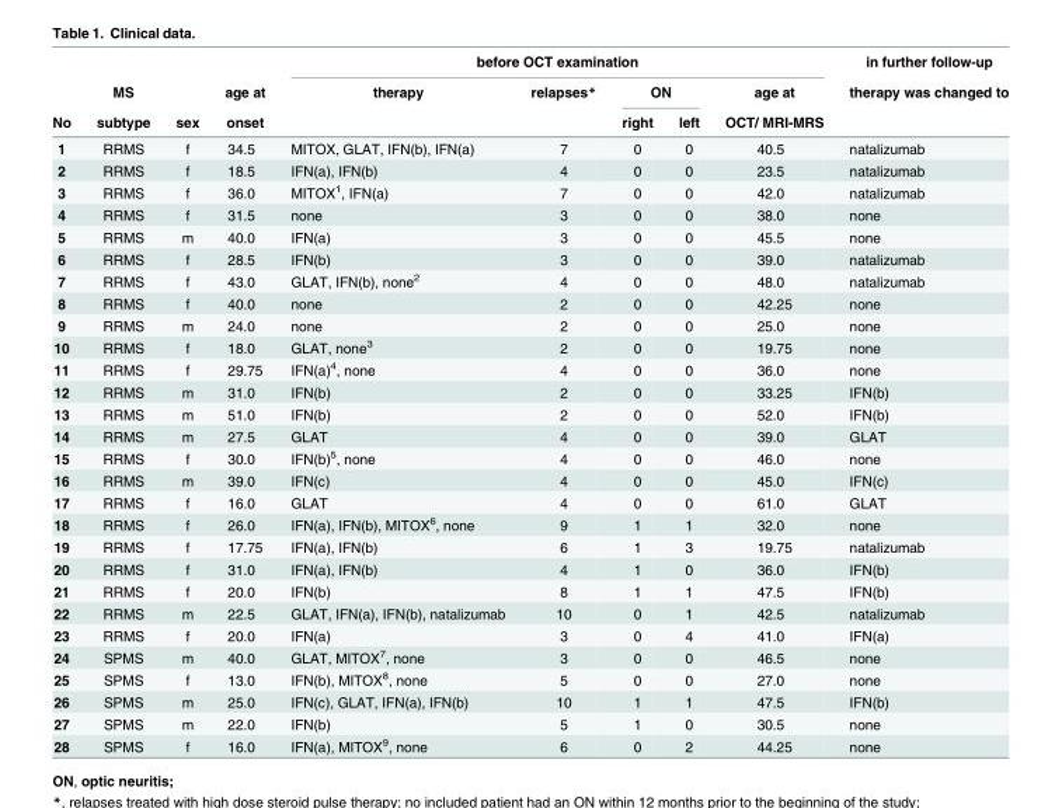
<table><thead><tr><td rowspan="3">No</td><td rowspan="3">MS subtype</td><td rowspan="3">sex</td><td rowspan="3">age at onset</td><td colspan="5">before OCT examination</td><td rowspan="3">in further follow-up therapy was changed to</td></tr><tr><td rowspan="2">therapy</td><td rowspan="2">relapses*</td><td colspan="2">ON</td><td rowspan="2">age at OCT/ MRI-MRS</td></tr><tr><td>right</td><td>left</td></tr></thead><tbody><tr><td>1</td><td>RRMS</td><td>f</td><td>34.5</td><td>MITOX, GLAT, IFN(b), IFN(a)</td><td>7</td><td>0</td><td>0</td><td>40.5</td><td>natalizumab</td></tr><tr><td>2</td><td>RRMS</td><td>f</td><td>18.5</td><td>IFN(a), IFN(b)</td><td>4</td><td>0</td><td>0</td><td>23.5</td><td>natalizumab</td></tr><tr><td>3</td><td>RRMS</td><td>f</td><td>36.0</td><td>MITOX<sup>1</sup>, IFN(a)</td><td>7</td><td>0</td><td>0</td><td>42.0</td><td>natalizumab</td></tr><tr><td>4</td><td>RRMS</td><td>f</td><td>31.5</td><td>none</td><td>3</td><td>0</td><td>0</td><td>38.0</td><td>none</td></tr><tr><td>5</td><td>RRMS</td><td>m</td><td>40.0</td><td>IFN(a)</td><td>3</td><td>0</td><td>0</td><td>45.5</td><td>none</td></tr><tr><td>6</td><td>RRMS</td><td>f</td><td>28.5</td><td>IFN(b)</td><td>3</td><td>0</td><td>0</td><td>39.0</td><td>natalizumab</td></tr><tr><td>7</td><td>RRMS</td><td>f</td><td>43.0</td><td>GLAT, IFN(b), none<sup>2</sup></td><td>4</td><td>0</td><td>0</td><td>48.0</td><td>natalizumab</td></tr><tr><td>8</td><td>RRMS</td><td>f</td><td>40.0</td><td>none</td><td>2</td><td>0</td><td>0</td><td>42.25</td><td>none</td></tr><tr><td>9</td><td>RRMS</td><td>m</td><td>24.0</td><td>none</td><td>2</td><td>0</td><td>0</td><td>25.0</td><td>none</td></tr><tr><td>10</td><td>RRMS</td><td>f</td><td>18.0</td><td>GLAT, none<sup>3</sup></td><td>2</td><td>0</td><td>0</td><td>19.75</td><td>none</td></tr><tr><td>11</td><td>RRMS</td><td>f</td><td>29.75</td><td>IFN(a)<sup>4</sup>, none</td><td>4</td><td>0</td><td>0</td><td>36.0</td><td>none</td></tr><tr><td>12</td><td>RRMS</td><td>m</td><td>31.0</td><td>IFN(b)</td><td>2</td><td>0</td><td>0</td><td>33.25</td><td>IFN(b)</td></tr><tr><td>13</td><td>RRMS</td><td>m</td><td>51.0</td><td>IFN(b)</td><td>2</td><td>0</td><td>0</td><td>52.0</td><td>IFN(b)</td></tr><tr><td>14</td><td>RRMS</td><td>m</td><td>27.5</td><td>GLAT</td><td>4</td><td>0</td><td>0</td><td>39.0</td><td>GLAT</td></tr><tr><td>15</td><td>RRMS</td><td>f</td><td>30.0</td><td>IFN(b)<sup>5</sup>, none</td><td>4</td><td>0</td><td>0</td><td>46.0</td><td>none</td></tr><tr><td>16</td><td>RRMS</td><td>m</td><td>39.0</td><td>IFN(c)</td><td>4</td><td>0</td><td>0</td><td>45.0</td><td>IFN(c)</td></tr><tr><td>17</td><td>RRMS</td><td>f</td><td>16.0</td><td>GLAT</td><td>4</td><td>0</td><td>0</td><td>61.0</td><td>GLAT</td></tr><tr><td>18</td><td>RRMS</td><td>f</td><td>26.0</td><td>IFN(a), IFN(b), MITOX<sup>6</sup>, none</td><td>9</td><td>1</td><td>1</td><td>32.0</td><td>none</td></tr><tr><td>19</td><td>RRMS</td><td>f</td><td>17.75</td><td>IFN(a), IFN(b)</td><td>6</td><td>1</td><td>3</td><td>19.75</td><td>natalizumab</td></tr><tr><td>20</td><td>RRMS</td><td>f</td><td>31.0</td><td>IFN(a), IFN(b)</td><td>4</td><td>1</td><td>0</td><td>36.0</td><td>IFN(b)</td></tr><tr><td>21</td><td>RRMS</td><td>f</td><td>20.0</td><td>IFN(b)</td><td>8</td><td>1</td><td>1</td><td>47.5</td><td>IFN(b)</td></tr><tr><td>22</td><td>RRMS</td><td>m</td><td>22.5</td><td>GLAT, IFN(a), IFN(b), natalizumab</td><td>10</td><td>0</td><td>1</td><td>42.5</td><td>natalizumab</td></tr><tr><td>23</td><td>RRMS</td><td>f</td><td>20.0</td><td>IFN(a)</td><td>3</td><td>0</td><td>4</td><td>41.0</td><td>IFN(a)</td></tr><tr><td>24</td><td>SPMS</td><td>m</td><td>40.0</td><td>GLAT, MITOX<sup>7</sup>, none</td><td>3</td><td>0</td><td>0</td><td>46.5</td><td>none</td></tr><tr><td>25</td><td>SPMS</td><td>f</td><td>13.0</td><td>IFN(b), MITOX<sup>8</sup>, none</td><td>5</td><td>0</td><td>0</td><td>27.0</td><td>none</td></tr><tr><td>26</td><td>SPMS</td><td>m</td><td>25.0</td><td>IFN(c), GLAT, IFN(a), IFN(b)</td><td>10</td><td>1</td><td>1</td><td>47.5</td><td>IFN(b)</td></tr><tr><td>27</td><td>SPMS</td><td>m</td><td>22.0</td><td>IFN(b)</td><td>5</td><td>1</td><td>0</td><td>30.5</td><td>none</td></tr><tr><td>28</td><td>SPMS</td><td>f</td><td>16.0</td><td>IFN(a), MITOX<sup>9</sup>, none</td><td>6</td><td>0</td><td>2</td><td>44.25</td><td>none</td></tr></tbody></table>